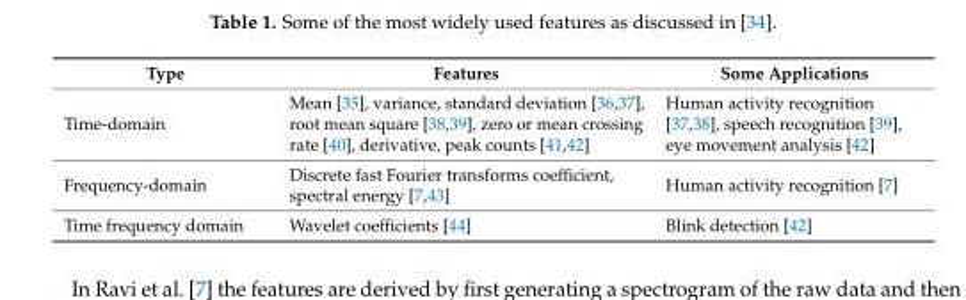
<table><thead><tr><td>Type</td><td>Features</td><td>Some Applications</td></tr></thead><tbody><tr><td>Time-domain</td><td>Mean [35], variance, standard deviation [36,37], root mean square [38,39], zero or mean crossing rate [40], derivative, peak counts [41,42]</td><td>Human activity recognition [37,38], speech recognition [39], eye movement analysis [42]</td></tr><tr><td>Frequency-domain</td><td>Discrete fast Fourier transforms coefficient, spectral energy [7,43]</td><td>Human activity recognition [7]</td></tr><tr><td>Time frequency domain</td><td>Wavelet coefficients [44]</td><td>Blink detection [42]</td></tr></tbody></table>